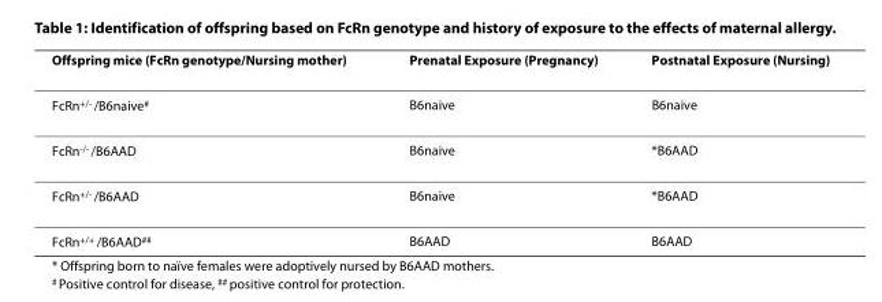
<table><thead><tr><td>Offspring mice (FcRn genotype/Nursing mother)</td><td>Prenatal Exposure (Pregnancy)</td><td>Postnatal Exposure (Nursing)</td></tr></thead><tbody><tr><td>FcRn<sup>+/-</sup> /B6naive<sup>#</sup></td><td>B6naive</td><td>B6naive</td></tr><tr><td>FcRn<sup>-/-</sup> /B6AAD</td><td>B6naive</td><td>*B6AAD</td></tr><tr><td>FcRn<sup>+/-</sup> /B6AAD</td><td>B6naive</td><td>*B6AAD</td></tr><tr><td>FcRn<sup>+/+</sup> /B6AAD<sup>##</sup></td><td>B6AAD</td><td>B6AAD</td></tr></tbody></table>